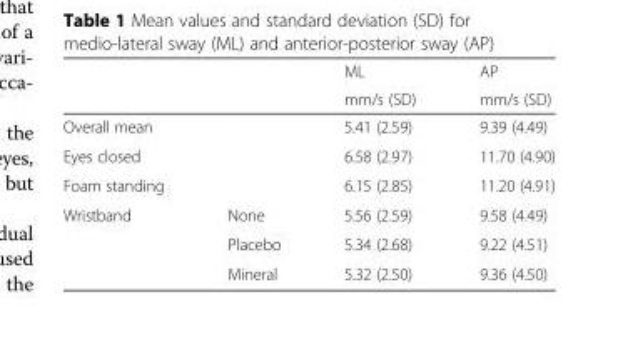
<table><thead><tr><td rowspan="2"></td><td rowspan="2"></td><td rowspan="2">ML mm/s (SD)</td><td rowspan="2">AP mm/s (SD)</td></tr><tr></tr></thead><tbody><tr><td>Overall mean</td><td></td><td>5.41 (2.59)</td><td>9.39 (4.49)</td></tr><tr><td>Eyes closed</td><td></td><td>6.58 (2.97)</td><td>11.70 (4.90)</td></tr><tr><td>Foam standing</td><td></td><td>6.15 (2.85)</td><td>11.20 (4.91)</td></tr><tr><td rowspan="3">Wristband</td><td>None</td><td>5.56 (2.59)</td><td>9.58 (4.49)</td></tr><tr><td>Placebo</td><td>5.34 (2.68)</td><td>9.22 (4.51)</td></tr><tr><td>Mineral</td><td>5.32 (2.50)</td><td>9.36 (4.50)</td></tr></tbody></table>